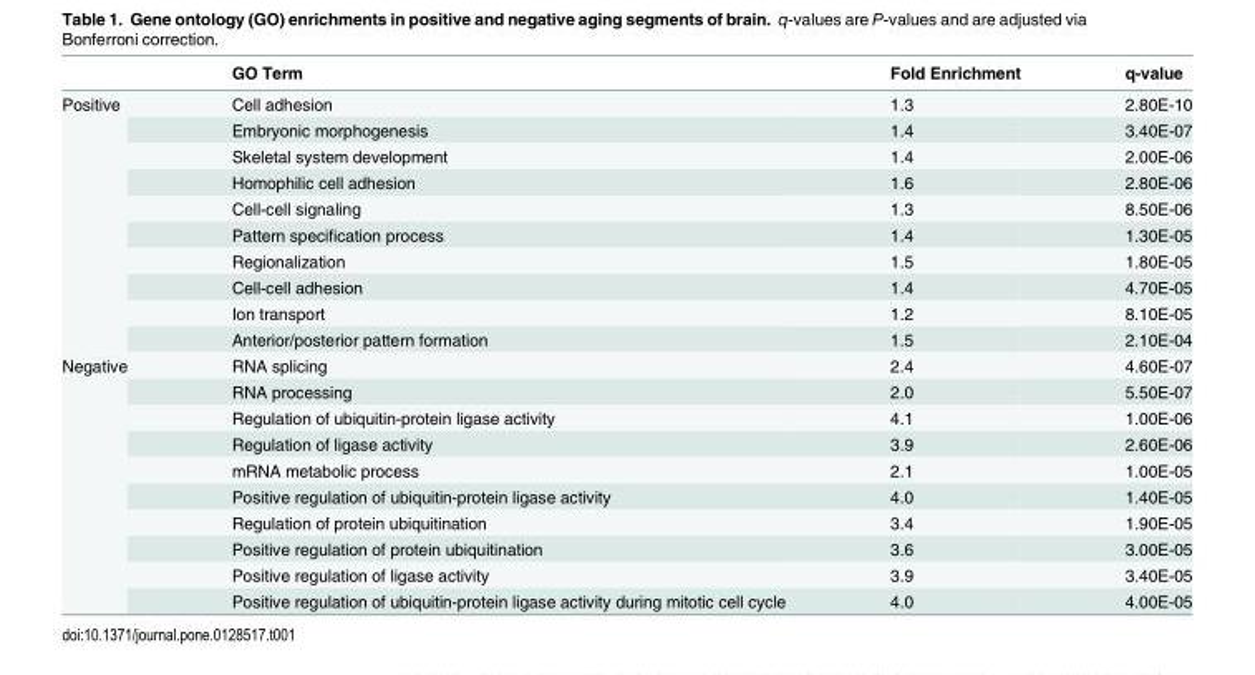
<table><thead><tr><td></td><td>GO Term</td><td>Fold Enrichment</td><td>q-value</td></tr></thead><tbody><tr><td rowspan="10">Positive</td><td>Cell adhesion</td><td>1.3</td><td>2.80E-10</td></tr><tr><td>Embryonic morphogenesis</td><td>1.4</td><td>3.40E-07</td></tr><tr><td>Skeletal system development</td><td>1.4</td><td>2.00E-06</td></tr><tr><td>Homophilic cell adhesion</td><td>1.6</td><td>2.80E-06</td></tr><tr><td>Cell-cell signaling</td><td>1.3</td><td>8.50E-06</td></tr><tr><td>Pattern specification process</td><td>1.4</td><td>1.30E-05</td></tr><tr><td>Regionalization</td><td>1.5</td><td>1.80E-05</td></tr><tr><td>Cell-cell adhesion</td><td>1.4</td><td>4.70E-05</td></tr><tr><td>Ion transport</td><td>1.2</td><td>8.10E-05</td></tr><tr><td>Anterior/posterior pattern formation</td><td>1.5</td><td>2.10E-04</td></tr><tr><td rowspan="10">Negative</td><td>RNA splicing</td><td>2.4</td><td>4.60E-07</td></tr><tr><td>RNA processing</td><td>2.0</td><td>5.50E-07</td></tr><tr><td>Regulation of ubiquitin-protein ligase activity</td><td>4.1</td><td>1.00E-06</td></tr><tr><td>Regulation of ligase activity</td><td>3.9</td><td>2.60E-06</td></tr><tr><td>mRNA metabolic process</td><td>2.1</td><td>1.00E-05</td></tr><tr><td>Positive regulation of ubiquitin-protein ligase activity</td><td>4.0</td><td>1.40E-05</td></tr><tr><td>Regulation of protein ubiquitination</td><td>3.4</td><td>1.90E-05</td></tr><tr><td>Positive regulation of protein ubiquitination</td><td>3.6</td><td>3.00E-05</td></tr><tr><td>Positive regulation of ligase activity</td><td>3.9</td><td>3.40E-05</td></tr><tr><td>Positive regulation of ubiquitin-protein ligase activity during mitotic cell cycle</td><td>4.0</td><td>4.00E-05</td></tr></tbody></table>